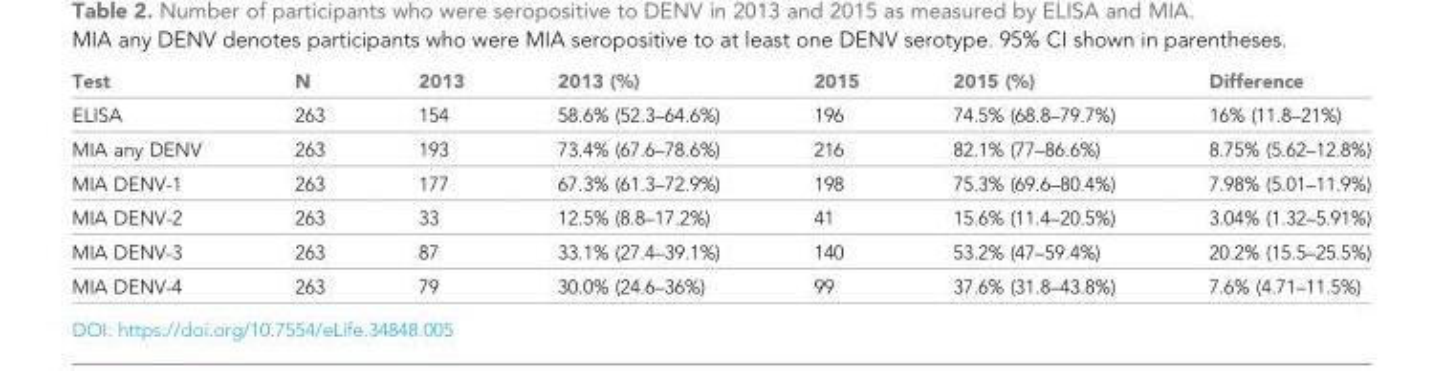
<table><thead><tr><td>Test</td><td>N</td><td>2013</td><td>2013 (%)</td><td>2015</td><td>2015 (%)</td><td>Difference</td></tr></thead><tbody><tr><td>ELISA</td><td>263</td><td>154</td><td>58.6% (52.3–64.6%)</td><td>196</td><td>74.5% (68.8–79.7%)</td><td>16% (11.8–21%)</td></tr><tr><td>MIA any DENV</td><td>263</td><td>193</td><td>73.4% (67.6–78.6%)</td><td>216</td><td>82.1% (77–86.6%)</td><td>8.75% (5.62–12.8%)</td></tr><tr><td>MIA DENV-1</td><td>263</td><td>177</td><td>67.3% (61.3–72.9%)</td><td>198</td><td>75.3% (69.6–80.4%)</td><td>7.98% (5.01–11.9%)</td></tr><tr><td>MIA DENV-2</td><td>263</td><td>33</td><td>12.5% (8.8–17.2%)</td><td>41</td><td>15.6% (11.4–20.5%)</td><td>3.04% (1.32–5.91%)</td></tr><tr><td>MIA DENV-3</td><td>263</td><td>87</td><td>33.1% (27.4–39.1%)</td><td>140</td><td>53.2% (47–59.4%)</td><td>20.2% (15.5–25.5%)</td></tr><tr><td>MIA DENV-4</td><td>263</td><td>79</td><td>30.0% (24.6–36%)</td><td>99</td><td>37.6% (31.8–43.8%)</td><td>7.6% (4.71–11.5%)</td></tr></tbody></table>